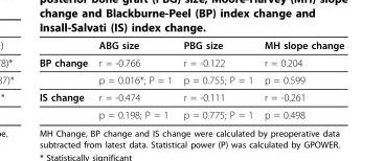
<table><thead><tr><td></td><td>ABG size</td><td>PBG size</td><td>MH slope change</td></tr></thead><tbody><tr><td rowspan="2">BP change</td><td>r = -0.766</td><td>r = -0.122</td><td>r = 0.204</td></tr><tr><td>p = 0.016*; P = 1</td><td>p = 0.755; P = 1</td><td>p = 0.599</td></tr><tr><td rowspan="2">IS change</td><td>r = -0.474</td><td>r = -0.111</td><td>r = -0.261</td></tr><tr><td>p = 0.198; P = 1</td><td>p = 0.775; P = 1</td><td>p = 0.498</td></tr></tbody></table>